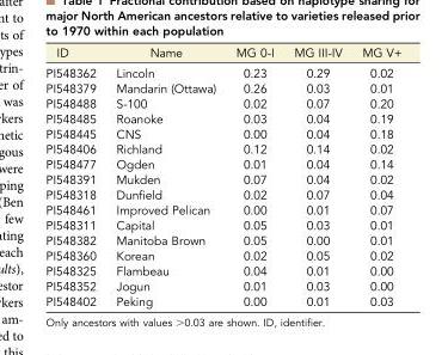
<table><thead><tr><td>ID</td><td>Name</td><td>MG 0-I</td><td>MG III-IV</td><td>MG V+</td></tr></thead><tbody><tr><td>PI548362</td><td>Lincoln</td><td>0.23</td><td>0.29</td><td>0.02</td></tr><tr><td>PI548379</td><td>Mandarin (Ottawa)</td><td>0.26</td><td>0.03</td><td>0.01</td></tr><tr><td>PI548488</td><td>S-100</td><td>0.02</td><td>0.07</td><td>0.20</td></tr><tr><td>PI548485</td><td>Roanoke</td><td>0.03</td><td>0.04</td><td>0.19</td></tr><tr><td>PI548445</td><td>CNS</td><td>0.00</td><td>0.04</td><td>0.18</td></tr><tr><td>PI548406</td><td>Richland</td><td>0.12</td><td>0.14</td><td>0.02</td></tr><tr><td>PI548477</td><td>Ogden</td><td>0.01</td><td>0.04</td><td>0.14</td></tr><tr><td>PI548391</td><td>Mukden</td><td>0.07</td><td>0.04</td><td>0.02</td></tr><tr><td>PI548318</td><td>Dunfield</td><td>0.02</td><td>0.07</td><td>0.04</td></tr><tr><td>PI548461</td><td>Improved Pelican</td><td>0.00</td><td>0.01</td><td>0.07</td></tr><tr><td>PI548311</td><td>Capital</td><td>0.05</td><td>0.03</td><td>0.01</td></tr><tr><td>PI548382</td><td>Manitoba Brown</td><td>0.05</td><td>0.00</td><td>0.01</td></tr><tr><td>PI548360</td><td>Korean</td><td>0.02</td><td>0.05</td><td>0.02</td></tr><tr><td>PI548325</td><td>Flambeau</td><td>0.04</td><td>0.01</td><td>0.00</td></tr><tr><td>PI548352</td><td>Jogun</td><td>0.01</td><td>0.03</td><td>0.00</td></tr><tr><td>PI548402</td><td>Peking</td><td>0.00</td><td>0.01</td><td>0.03</td></tr></tbody></table>